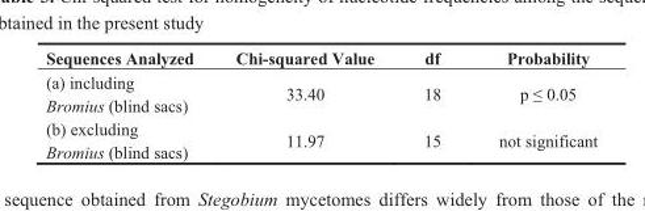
<table><thead><tr><td>Sequences Analyzed</td><td>Chi-squared Value</td><td>df</td><td>Probability</td></tr></thead><tbody><tr><td>(a) including Bromius (blind sacs)</td><td>33.40</td><td>18</td><td>p ≤ 0.05</td></tr><tr><td>(b) excluding Bromius (blind sacs)</td><td>11.97</td><td>15</td><td>not significant</td></tr></tbody></table>